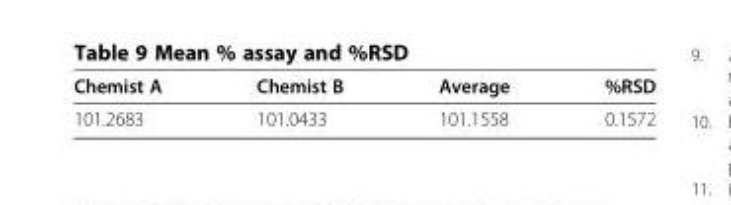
<table><thead><tr><td>Chemist A</td><td>Chemist B</td><td>Average</td><td>%RSD</td></tr></thead><tbody><tr><td>101.2683</td><td>101.0433</td><td>101.1558</td><td>0.1572</td></tr></tbody></table>